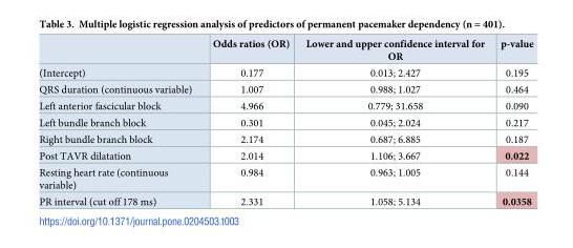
<table><thead><tr><td></td><td>Odds ratios (OR)</td><td>Lower and upper confidence interval for OR</td><td>p-value</td></tr></thead><tbody><tr><td>(Intercept)</td><td>0.177</td><td>0.013; 2.427</td><td>0.195</td></tr><tr><td>QRS duration (continuous variable)</td><td>1.007</td><td>0.988; 1.027</td><td>0.464</td></tr><tr><td>Left anterior fascicular block</td><td>4.966</td><td>0.779; 31.658</td><td>0.090</td></tr><tr><td>Left bundle branch block</td><td>0.301</td><td>0.045; 2.024</td><td>0.217</td></tr><tr><td>Right bundle branch block</td><td>2.174</td><td>0.687; 6.885</td><td>0.187</td></tr><tr><td>Post TAVR dilatation</td><td>2.014</td><td>1.106; 3.667</td><td>0.022</td></tr><tr><td>Resting heart rate (continuous variable)</td><td>0.984</td><td>0.963; 1.005</td><td>0.144</td></tr><tr><td>PR interval (cut off 178 ms)</td><td>2.331</td><td>1.058; 5.134</td><td>0.0358</td></tr></tbody></table>